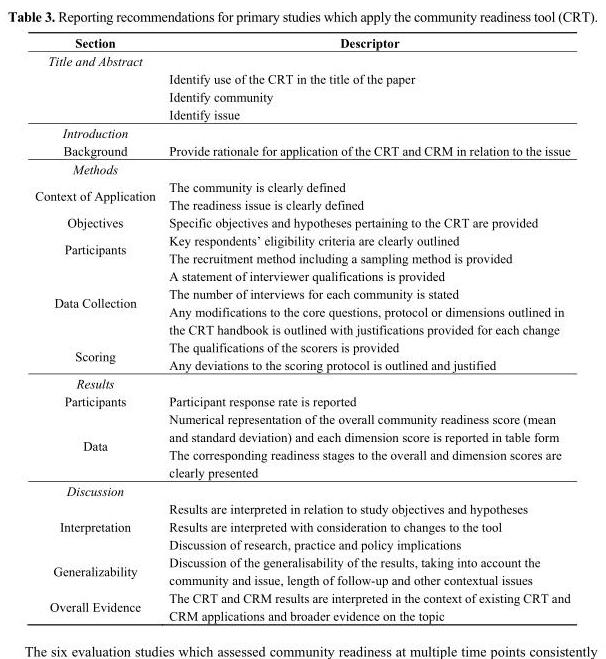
<table><thead><tr><td>Section</td><td>Descriptor</td></tr></thead><tbody><tr><td colspan="2">Title and Abstract</td></tr><tr><td rowspan="3"></td><td>Identify use of the CRT in the title of the paper</td></tr><tr><td>Identify community</td></tr><tr><td>Identify issue</td></tr><tr><td colspan="2">Introduction</td></tr><tr><td>Background</td><td>Provide rationale for application of the CRT and CRM in relation to the issue</td></tr><tr><td colspan="2">Methods</td></tr><tr><td rowspan="2">Context of Application</td><td>The community is clearly defined</td></tr><tr><td>The readiness issue is clearly defined</td></tr><tr><td>Objectives</td><td>Specific objectives and hypotheses pertaining to the CRT are provided</td></tr><tr><td rowspan="2">Participants</td><td>Key respondents’ eligibility criteria are clearly outlined</td></tr><tr><td>The recruitment method including a sampling method is provided</td></tr><tr><td rowspan="3">Data Collection</td><td>A statement of interviewer qualifications is provided</td></tr><tr><td>The number of interviews for each community is stated</td></tr><tr><td>Any modifications to the core questions, protocol or dimensions outlined in the CRT handbook is outlined with justifications provided for each change</td></tr><tr><td rowspan="2">Scoring</td><td>The qualifications of the scorers is provided</td></tr><tr><td>Any deviations to the scoring protocol is outlined and justified</td></tr><tr><td colspan="2">Results</td></tr><tr><td>Participants</td><td>Participant response rate is reported</td></tr><tr><td rowspan="2">Data</td><td>Numerical representation of the overall community readiness score (mean and standard deviation) and each dimension score is reported in table form</td></tr><tr><td>The corresponding readiness stages to the overall and dimension scores are clearly presented</td></tr><tr><td colspan="2">Discussion</td></tr><tr><td rowspan="3">Interpretation</td><td>Results are interpreted in relation to study objectives and hypotheses</td></tr><tr><td>Results are interpreted with consideration to changes to the tool</td></tr><tr><td>Discussion of research, practice and policy implications</td></tr><tr><td>Generalizability</td><td>Discussion of the generalisability of the results, taking into account the community and issue, length of follow-up and other contextual issues</td></tr><tr><td>Overall Evidence</td><td>The CRT and CRM results are interpreted in the context of existing CRT and CRM applications and broader evidence on the topic</td></tr></tbody></table>